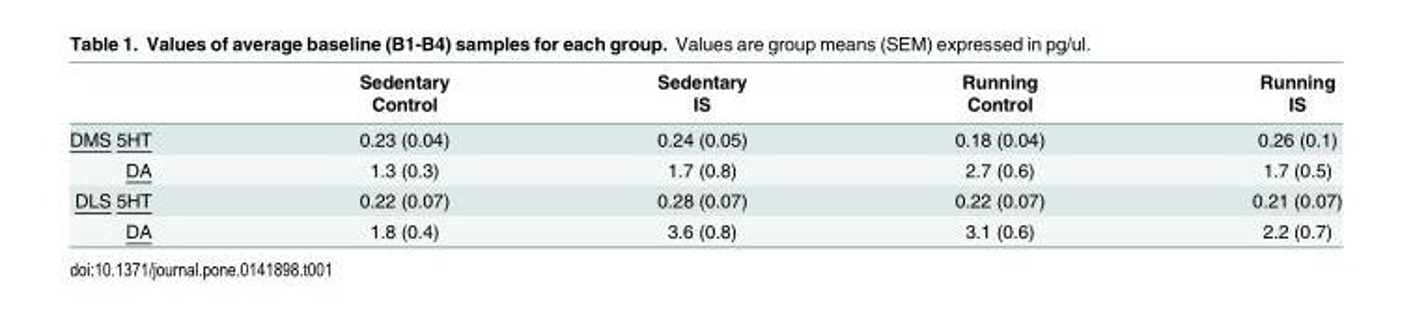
<table><thead><tr><td rowspan="2"></td><td rowspan="2">Sedentary Control</td><td rowspan="2">Sedentary IS</td><td rowspan="2">Running Control</td><td rowspan="2">Running IS</td></tr><tr></tr></thead><tbody><tr><td>DMS 5HT</td><td>0.23 (0.04)</td><td>0.24 (0.05)</td><td>0.18 (0.04)</td><td>0.26 (0.1)</td></tr><tr><td>DA</td><td>1.3 (0.3)</td><td>1.7 (0.8)</td><td>2.7 (0.6)</td><td>1.7 (0.5)</td></tr><tr><td>DLS 5HT</td><td>0.22 (0.07)</td><td>0.28 (0.07)</td><td>0.22 (0.07)</td><td>0.21 (0.07)</td></tr><tr><td>DA</td><td>1.8 (0.4)</td><td>3.6 (0.8)</td><td>3.1 (0.6)</td><td>2.2 (0.7)</td></tr></tbody></table>